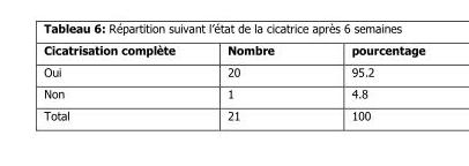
<table><thead><tr><td>Cicatrisation complète</td><td>Nombre</td><td>pourcentage</td></tr></thead><tbody><tr><td>Oui</td><td>20</td><td>95.2</td></tr><tr><td>Non</td><td>1</td><td>4.8</td></tr><tr><td>Total</td><td>21</td><td>100</td></tr></tbody></table>